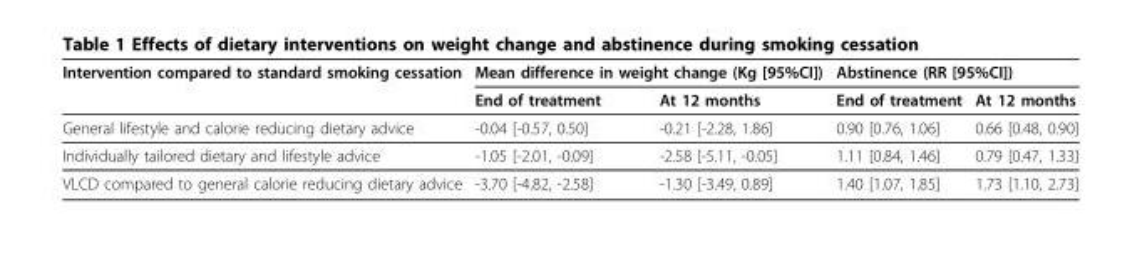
<table><thead><tr><td rowspan="2">Intervention compared to standard smoking cessation</td><td colspan="2">Mean difference in weight change (Kg [95%CI])</td><td colspan="2">Abstinence (RR [95%CI])</td></tr><tr><td>End of treatment</td><td>At 12 months</td><td>End of treatment</td><td>At 12 months</td></tr></thead><tbody><tr><td>General lifestyle and calorie reducing dietary advice</td><td>-0.04 [-0.57, 0.50]</td><td>-0.21 [-2.28, 1.86]</td><td>0.90 [0.76, 1.06]</td><td>0.66 [0.48, 0.90]</td></tr><tr><td>Individually tailored dietary and lifestyle advice</td><td>-1.05 [-2.01, -0.09]</td><td>-2.58 [-5.11, -0.05]</td><td>1.11 [0.84, 1.46]</td><td>0.79 [0.47, 1.33]</td></tr><tr><td>VLCD compared to general calorie reducing dietary advice</td><td>-3.70 [-4.82, -2.58]</td><td>-1.30 [-3.49, 0.89]</td><td>1.40 [1.07, 1.85]</td><td>1.73 [1.10, 2.73]</td></tr></tbody></table>